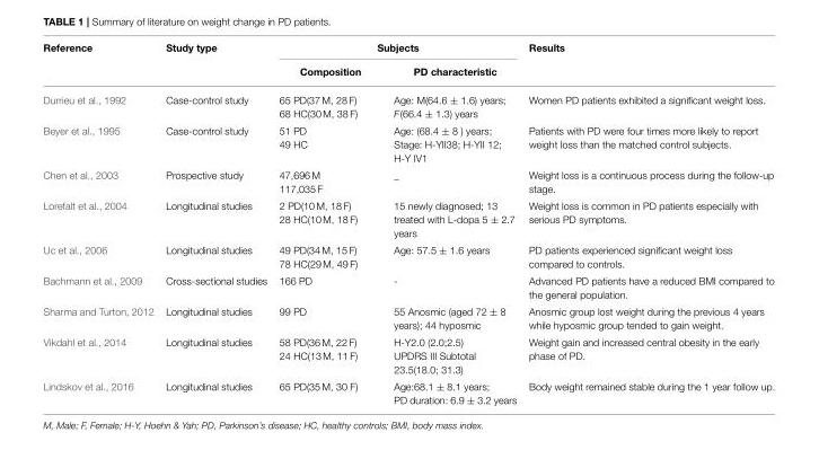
<table><thead><tr><td rowspan="2">Reference</td><td rowspan="2">Study type</td><td colspan="2">Subjects</td><td rowspan="2">Results</td></tr><tr><td>Composition</td><td>PD characteristic</td></tr></thead><tbody><tr><td>Durrieu et al., 1992</td><td>Case-control study</td><td>65 PD(37 M, 28 F) 68 HC(30 M, 38 F)</td><td>Age: M(64.6 ± 1.6) years; F(66.4 ± 1.3) years</td><td>Women PD patients exhibited a significant weight loss.</td></tr><tr><td>Beyer et al., 1995</td><td>Case-control study</td><td>51 PD 49 HC</td><td>Age: (68.4 ± 8 ) years; Stage: H-YII38; H-YII 12; H-Y IV1</td><td>Patients with PD were four times more likely to report weight loss than the matched control subjects.</td></tr><tr><td>Chen et al., 2003</td><td>Prospective study</td><td>47,696 M 117,035 F</td><td>_</td><td>Weight loss is a continuous process during the follow-up stage.</td></tr><tr><td>Lorefalt et al., 2004</td><td>Longitudinal studies</td><td>2 PD(10 M, 18 F) 28 HC(10 M, 18 F)</td><td>15 newly diagnosed; 13 treated with L-dopa 5 ± 2.7 years</td><td>Weight loss is common in PD patients especially with serious PD symptoms.</td></tr><tr><td>Uc et al., 2006</td><td>Longitudinal studies</td><td>49 PD(34 M, 15 F) 78 HC(29 M, 49 F)</td><td>Age: 57.5 ± 1.6 years</td><td>PD patients experienced significant weight loss compared to controls.</td></tr><tr><td>Bachmann et al., 2009</td><td>Cross-sectional studies</td><td>166 PD</td><td>-</td><td>Advanced PD patients have a reduced BMI compared to the general population.</td></tr><tr><td>Sharma and Turton, 2012</td><td>Longitudinal studies</td><td>99 PD</td><td>55 Anosmic (aged 72 ± 8 years); 44 hyposmic</td><td>Anosmic group lost weight during the previous 4 years while hyposmic group tended to gain weight.</td></tr><tr><td>Vikdahl et al., 2014</td><td>Longitudinal studies</td><td>58 PD(36 M, 22 F) 24 HC(13 M, 11 F)</td><td>H-Y2.0 (2.0;2.5) UPDRS III Subtotal 23.5(18.0; 31.3)</td><td>Weight gain and increased central obesity in the early phase of PD.</td></tr><tr><td>Lindskov et al., 2016</td><td>Longitudinal studies</td><td>65 PD(35 M, 30 F)</td><td>Age:68.1 ± 8.1 years; PD duration: 6.9 ± 3.2 years</td><td>Body weight remained stable during the 1 year follow up.</td></tr></tbody></table>